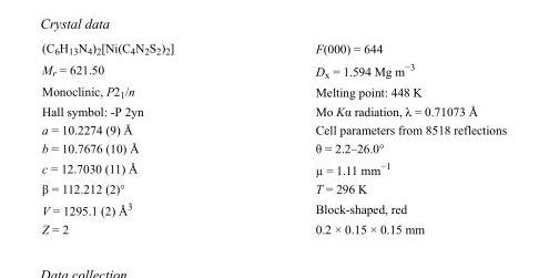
<table><tbody><tr><td>(C<sub>6</sub>H<sub>13</sub>N<sub>4</sub>)<sub>2</sub>[Ni(C<sub>4</sub>N<sub>2</sub>S<sub>2</sub>)<sub>2</sub>]</td><td>F(000) = 644</td></tr><tr><td>M<sub>r</sub> = 621.50</td><td>D<sub>x</sub> = 1.594 Mg m<sup>−3</sup></td></tr><tr><td>Monoclinic, P2<sub>1</sub>/n</td><td>Melting point: 448 K</td></tr><tr><td>Hall symbol: -P 2yn</td><td>Mo Kα radiation, λ = 0.71073 Å</td></tr><tr><td>a = 10.2274 (9) Å</td><td>Cell parameters from 8518 reflections</td></tr><tr><td>b = 10.7676 (10) Å</td><td>θ = 2.2–26.0°</td></tr><tr><td>c = 12.7030 (11) Å</td><td>µ = 1.11 mm<sup>−1</sup></td></tr><tr><td>β = 112.212 (2)°</td><td>T = 296 K</td></tr><tr><td>V = 1295.1 (2) Å<sup>3</sup></td><td>Block-shaped, red</td></tr><tr><td>Z = 2</td><td>0.2 × 0.15 × 0.15 mm</td></tr></tbody></table>